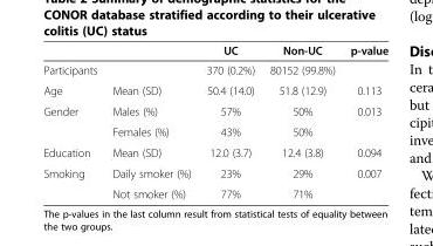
<table><thead><tr><td></td><td></td><td>UC</td><td>Non-UC</td><td>p-value</td></tr></thead><tbody><tr><td>Participants</td><td></td><td>370 (0.2%)</td><td>80152 (99.8%)</td><td></td></tr><tr><td>Age</td><td>Mean (SD)</td><td>50.4 (14.0)</td><td>51.8 (12.9)</td><td>0.113</td></tr><tr><td rowspan="2">Gender</td><td>Males (%)</td><td>57%</td><td>50%</td><td>0.013</td></tr><tr><td>Females (%)</td><td>43%</td><td>50%</td><td></td></tr><tr><td>Education</td><td>Mean (SD)</td><td>12.0 (3.7)</td><td>12.4 (3.8)</td><td>0.094</td></tr><tr><td rowspan="2">Smoking</td><td>Daily smoker (%)</td><td>23%</td><td>29%</td><td>0.007</td></tr><tr><td>Not smoker (%)</td><td>77%</td><td>71%</td><td></td></tr></tbody></table>